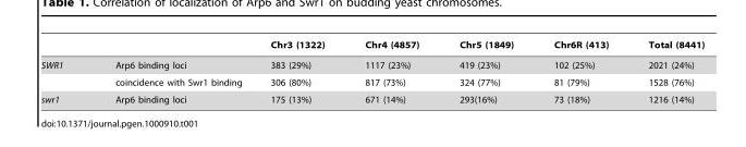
<table><thead><tr><td></td><td></td><td>Chr3 (1322)</td><td>Chr4 (4857)</td><td>Chr5 (1849)</td><td>Chr6R (413)</td><td>Total (8441)</td></tr></thead><tbody><tr><td rowspan="2">SWR1</td><td>Arp6 binding loci</td><td>383 (29%)</td><td>1117 (23%)</td><td>419 (23%)</td><td>102 (25%)</td><td>2021 (24%)</td></tr><tr><td>coincidence with Swr1 binding</td><td>306 (80%)</td><td>817 (73%)</td><td>324 (77%)</td><td>81 (79%)</td><td>1528 (76%)</td></tr><tr><td>swr1</td><td>Arp6 binding loci</td><td>175 (13%)</td><td>671 (14%)</td><td>293(16%)</td><td>73 (18%)</td><td>1216 (14%)</td></tr></tbody></table>